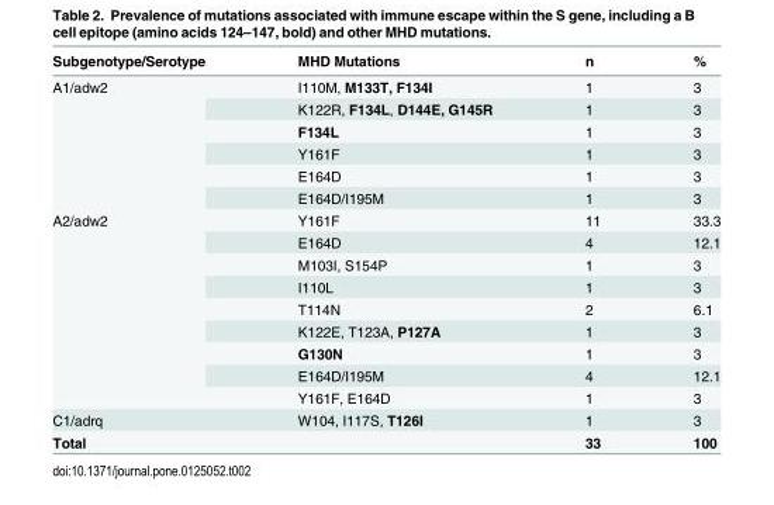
<table><thead><tr><td>Subgenotype/Serotype</td><td>MHD Mutations</td><td>n</td><td>%</td></tr></thead><tbody><tr><td rowspan="6">A1/adw2</td><td>I110M, M133T, F134I</td><td>1</td><td>3</td></tr><tr><td>K122R, F134L, D144E, G145R</td><td>1</td><td>3</td></tr><tr><td>F134L</td><td>1</td><td>3</td></tr><tr><td>Y161F</td><td>1</td><td>3</td></tr><tr><td>E164D</td><td>1</td><td>3</td></tr><tr><td>E164D/I195M</td><td>1</td><td>3</td></tr><tr><td rowspan="9">A2/adw2</td><td>Y161F</td><td>11</td><td>33.3</td></tr><tr><td>E164D</td><td>4</td><td>12.1</td></tr><tr><td>M103I, S154P</td><td>1</td><td>3</td></tr><tr><td>I110L</td><td>1</td><td>3</td></tr><tr><td>T114N</td><td>2</td><td>6.1</td></tr><tr><td>K122E, T123A, P127A</td><td>1</td><td>3</td></tr><tr><td>G130N</td><td>1</td><td>3</td></tr><tr><td>E164D/I195M</td><td>4</td><td>12.1</td></tr><tr><td>Y161F, E164D</td><td>1</td><td>3</td></tr><tr><td>C1/adrq</td><td>W104, I117S, T126I</td><td>1</td><td>3</td></tr><tr><td>Total</td><td></td><td>33</td><td>100</td></tr></tbody></table>